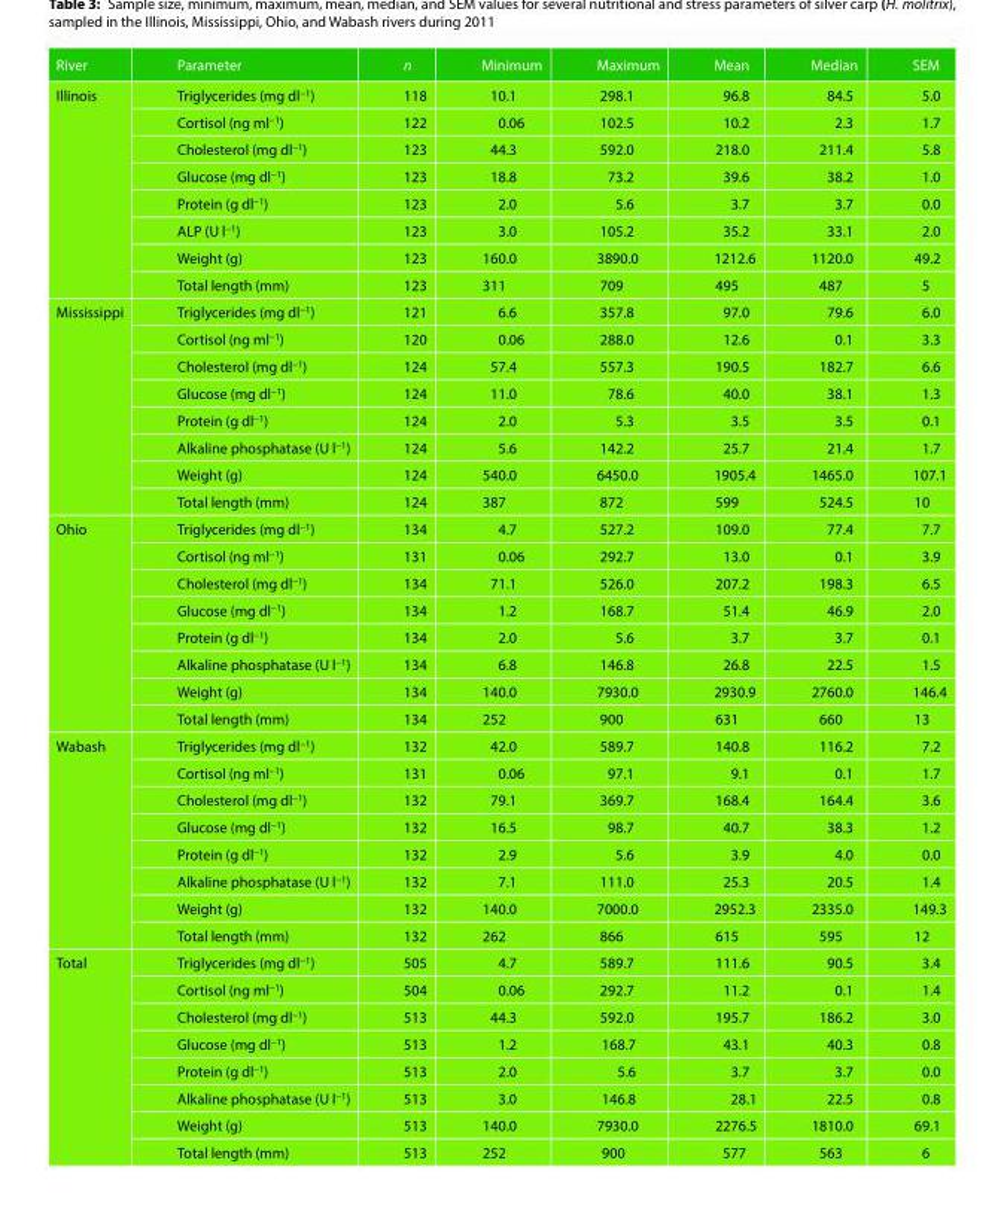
<table><thead><tr><td>River</td><td>Parameter</td><td>n</td><td>Minimum</td><td>Maximum</td><td>Mean</td><td>Median</td><td>SEM</td></tr></thead><tbody><tr><td rowspan="8">Illinois</td><td>Triglycerides (mg dl<sup>−1</sup>)</td><td>118</td><td>10.1</td><td>298.1</td><td>96.8</td><td>84.5</td><td>5.0</td></tr><tr><td>Cortisol (ng ml<sup>−1</sup>)</td><td>122</td><td>0.06</td><td>102.5</td><td>10.2</td><td>2.3</td><td>1.7</td></tr><tr><td>Cholesterol (mg dl<sup>−1</sup>)</td><td>123</td><td>44.3</td><td>592.0</td><td>218.0</td><td>211.4</td><td>5.8</td></tr><tr><td>Glucose (mg dl<sup>−1</sup>)</td><td>123</td><td>18.8</td><td>73.2</td><td>39.6</td><td>38.2</td><td>1.0</td></tr><tr><td>Protein (g dl<sup>−1</sup>)</td><td>123</td><td>2.0</td><td>5.6</td><td>3.7</td><td>3.7</td><td>0.0</td></tr><tr><td>ALP (U l<sup>−1</sup>)</td><td>123</td><td>3.0</td><td>105.2</td><td>35.2</td><td>33.1</td><td>2.0</td></tr><tr><td>Weight (g)</td><td>123</td><td>160.0</td><td>3890.0</td><td>1212.6</td><td>1120.0</td><td>49.2</td></tr><tr><td>Total length (mm)</td><td>123</td><td>311</td><td>709</td><td>495</td><td>487</td><td>5</td></tr><tr><td rowspan="8">Mississippi</td><td>Triglycerides (mg dl<sup>−1</sup>)</td><td>121</td><td>6.6</td><td>357.8</td><td>97.0</td><td>79.6</td><td>6.0</td></tr><tr><td>Cortisol (ng ml<sup>−1</sup>)</td><td>120</td><td>0.06</td><td>288.0</td><td>12.6</td><td>0.1</td><td>3.3</td></tr><tr><td>Cholesterol (mg dl<sup>−1</sup>)</td><td>124</td><td>57.4</td><td>557.3</td><td>190.5</td><td>182.7</td><td>6.6</td></tr><tr><td>Glucose (mg dl<sup>−1</sup>)</td><td>124</td><td>11.0</td><td>78.6</td><td>40.0</td><td>38.1</td><td>1.3</td></tr><tr><td>Protein (g dl<sup>−1</sup>)</td><td>124</td><td>2.0</td><td>5.3</td><td>3.5</td><td>3.5</td><td>0.1</td></tr><tr><td>Alkaline phosphatase (U l<sup>−1</sup>)</td><td>124</td><td>5.6</td><td>142.2</td><td>25.7</td><td>21.4</td><td>1.7</td></tr><tr><td>Weight (g)</td><td>124</td><td>540.0</td><td>6450.0</td><td>1905.4</td><td>1465.0</td><td>107.1</td></tr><tr><td>Total length (mm)</td><td>124</td><td>387</td><td>872</td><td>599</td><td>524.5</td><td>10</td></tr><tr><td rowspan="8">Ohio</td><td>Triglycerides (mg dl<sup>−1</sup>)</td><td>134</td><td>4.7</td><td>527.2</td><td>109.0</td><td>77.4</td><td>7.7</td></tr><tr><td>Cortisol (ng ml<sup>−1</sup>)</td><td>131</td><td>0.06</td><td>292.7</td><td>13.0</td><td>0.1</td><td>3.9</td></tr><tr><td>Cholesterol (mg dl<sup>−1</sup>)</td><td>134</td><td>71.1</td><td>526.0</td><td>207.2</td><td>198.3</td><td>6.5</td></tr><tr><td>Glucose (mg dl<sup>−1</sup>)</td><td>134</td><td>1.2</td><td>168.7</td><td>51.4</td><td>46.9</td><td>2.0</td></tr><tr><td>Protein (g dl<sup>−1</sup>)</td><td>134</td><td>2.0</td><td>5.6</td><td>3.7</td><td>3.7</td><td>0.1</td></tr><tr><td>Alkaline phosphatase (U l<sup>−1</sup>)</td><td>134</td><td>6.8</td><td>146.8</td><td>26.8</td><td>22.5</td><td>1.5</td></tr><tr><td>Weight (g)</td><td>134</td><td>140.0</td><td>7930.0</td><td>2930.9</td><td>2760.0</td><td>146.4</td></tr><tr><td>Total length (mm)</td><td>134</td><td>252</td><td>900</td><td>631</td><td>660</td><td>13</td></tr><tr><td rowspan="8">Wabash</td><td>Triglycerides (mg dl<sup>−1</sup>)</td><td>132</td><td>42.0</td><td>589.7</td><td>140.8</td><td>116.2</td><td>7.2</td></tr><tr><td>Cortisol (ng ml<sup>−1</sup>)</td><td>131</td><td>0.06</td><td>97.1</td><td>9.1</td><td>0.1</td><td>1.7</td></tr><tr><td>Cholesterol (mg dl<sup>−1</sup>)</td><td>132</td><td>79.1</td><td>369.7</td><td>168.4</td><td>164.4</td><td>3.6</td></tr><tr><td>Glucose (mg dl<sup>−1</sup>)</td><td>132</td><td>16.5</td><td>98.7</td><td>40.7</td><td>38.3</td><td>1.2</td></tr><tr><td>Protein (g dl<sup>−1</sup>)</td><td>132</td><td>2.9</td><td>5.6</td><td>3.9</td><td>4.0</td><td>0.0</td></tr><tr><td>Alkaline phosphatase (U l<sup>−1</sup>)</td><td>132</td><td>7.1</td><td>111.0</td><td>25.3</td><td>20.5</td><td>1.4</td></tr><tr><td>Weight (g)</td><td>132</td><td>140.0</td><td>7000.0</td><td>2952.3</td><td>2335.0</td><td>149.3</td></tr><tr><td>Total length (mm)</td><td>132</td><td>262</td><td>866</td><td>615</td><td>595</td><td>12</td></tr><tr><td rowspan="8">Total</td><td>Triglycerides (mg dl<sup>−1</sup>)</td><td>505</td><td>4.7</td><td>589.7</td><td>111.6</td><td>90.5</td><td>3.4</td></tr><tr><td>Cortisol (ng ml<sup>−1</sup>)</td><td>504</td><td>0.06</td><td>292.7</td><td>11.2</td><td>0.1</td><td>1.4</td></tr><tr><td>Cholesterol (mg dl<sup>−1</sup>)</td><td>513</td><td>44.3</td><td>592.0</td><td>195.7</td><td>186.2</td><td>3.0</td></tr><tr><td>Glucose (mg dl<sup>−1</sup>)</td><td>513</td><td>1.2</td><td>168.7</td><td>43.1</td><td>40.3</td><td>0.8</td></tr><tr><td>Protein (g dl<sup>−1</sup>)</td><td>513</td><td>2.0</td><td>5.6</td><td>3.7</td><td>3.7</td><td>0.0</td></tr><tr><td>Alkaline phosphatase (U l<sup>−1</sup>)</td><td>513</td><td>3.0</td><td>146.8</td><td>28.1</td><td>22.5</td><td>0.8</td></tr><tr><td>Weight (g)</td><td>513</td><td>140.0</td><td>7930.0</td><td>2276.5</td><td>1810.0</td><td>69.1</td></tr><tr><td>Total length (mm)</td><td>513</td><td>252</td><td>900</td><td>577</td><td>563</td><td>6</td></tr></tbody></table>